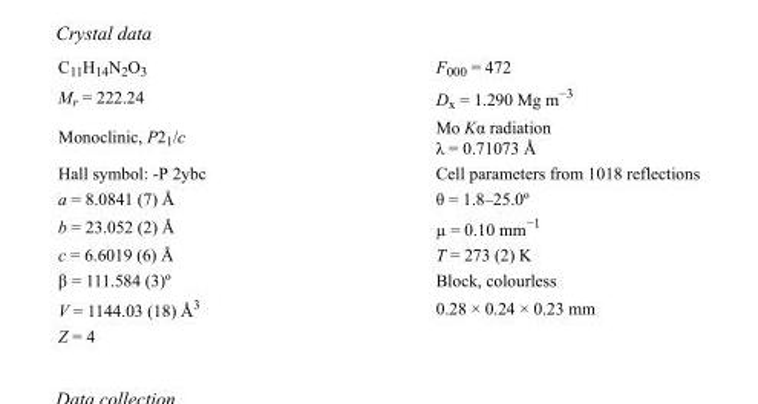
<table><tbody><tr><td>C<sub>11</sub>H<sub>14</sub>N<sub>2</sub>O<sub>3</sub></td><td>F<sub>000</sub> = 472</td></tr><tr><td>M<sub>r</sub> = 222.24</td><td>D<sub>x</sub> = 1.290 Mg m<sup>−3</sup></td></tr><tr><td>Monoclinic, P2<sub>1</sub>/c</td><td>Mo Kα radiation λ = 0.71073 Å</td></tr><tr><td>Hall symbol: -P 2ybc</td><td>Cell parameters from 1018 reflections</td></tr><tr><td>a = 8.0841 (7) Å</td><td>θ = 1.8–25.0º</td></tr><tr><td>b = 23.052 (2) Å</td><td>µ = 0.10 mm<sup>−1</sup></td></tr><tr><td>c = 6.6019 (6) Å</td><td>T = 273 (2) K</td></tr><tr><td>β = 111.584 (3)º</td><td>Block, colourless</td></tr><tr><td>V = 1144.03 (18) Å<sup>3</sup></td><td>0.28 × 0.24 × 0.23 mm</td></tr><tr><td>Z = 4</td><td></td></tr></tbody></table>